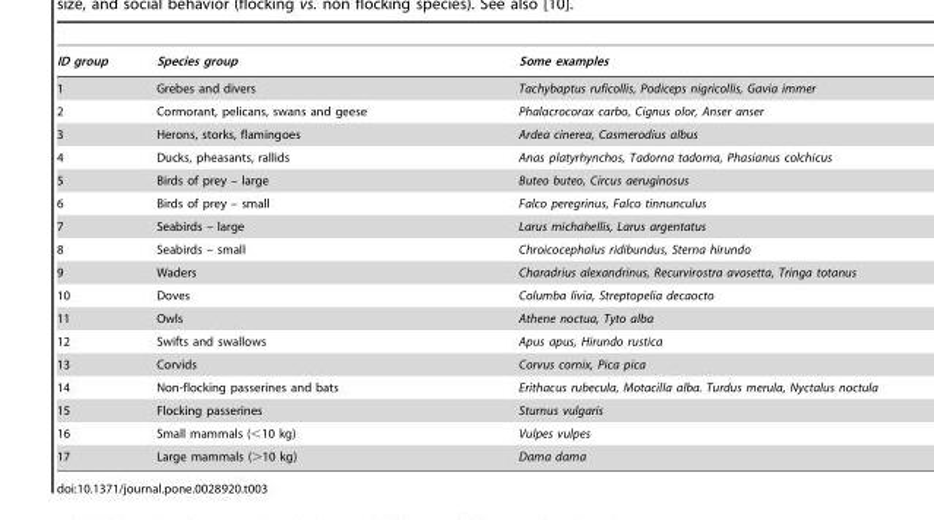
<table><thead><tr><td>ID group</td><td>Species group</td><td>Some examples</td></tr></thead><tbody><tr><td>1</td><td>Grebes and divers</td><td>Tachybaptus ruficollis, Podiceps nigricollis, Gavia immer</td></tr><tr><td>2</td><td>Cormorant, pelicans, swans and geese</td><td>Phalacrocorax carbo, Cignus olor, Anser anser</td></tr><tr><td>3</td><td>Herons, storks, flamingoes</td><td>Ardea cinerea, Casmerodius albus</td></tr><tr><td>4</td><td>Ducks, pheasants, rallids</td><td>Anas platyrhynchos, Tadorna tadorna, Phasianus colchicus</td></tr><tr><td>5</td><td>Birds of prey – large</td><td>Buteo buteo, Circus aeruginosus</td></tr><tr><td>6</td><td>Birds of prey – small</td><td>Falco peregrinus, Falco tinnunculus</td></tr><tr><td>7</td><td>Seabirds – large</td><td>Larus michahellis, Larus argentatus</td></tr><tr><td>8</td><td>Seabirds – small</td><td>Chroicocephalus ridibundus, Sterna hirundo</td></tr><tr><td>9</td><td>Waders</td><td>Charadrius alexandrinus, Recurvirostra avosetta, Tringa totanus</td></tr><tr><td>10</td><td>Doves</td><td>Columba livia, Streptopelia decaocto</td></tr><tr><td>11</td><td>Owls</td><td>Athene noctua, Tyto alba</td></tr><tr><td>12</td><td>Swifts and swallows</td><td>Apus apus, Hirundo rustica</td></tr><tr><td>13</td><td>Corvids</td><td>Corvus cornix, Pica pica</td></tr><tr><td>14</td><td>Non-flocking passerines and bats</td><td>Erithacus rubecula, Motacilla alba. Turdus merula, Nyctalus noctula</td></tr><tr><td>15</td><td>Flocking passerines</td><td>Sturnus vulgaris</td></tr><tr><td>16</td><td>Small mammals (&lt;10 kg)</td><td>Vulpes vulpes</td></tr><tr><td>17</td><td>Large mammals (&gt;10 kg)</td><td>Dama dama</td></tr></tbody></table>